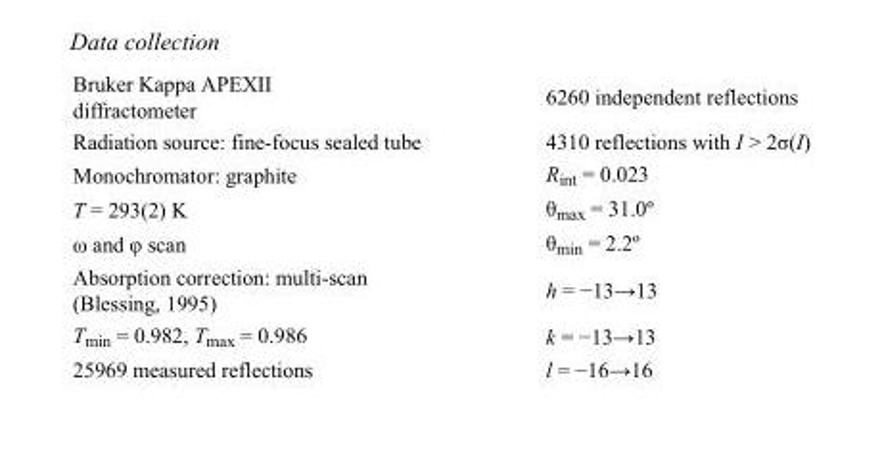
<table><tbody><tr><td>Bruker Kappa APEXII diffractometer</td><td>6260 independent reflections</td></tr><tr><td>Radiation source: fine-focus sealed tube</td><td>4310 reflections with I &gt; 2σ(I)</td></tr><tr><td>Monochromator: graphite</td><td>R<sub>int</sub> = 0.023</td></tr><tr><td>T = 293(2) K</td><td>θ<sub>max</sub> = 31.0º</td></tr><tr><td>ω and φ scan</td><td>θ<sub>min</sub> = 2.2º</td></tr><tr><td>Absorption correction: multi-scan (Blessing, 1995)</td><td>h = −13→13</td></tr><tr><td>T<sub>min</sub> = 0.982, T<sub>max</sub> = 0.986</td><td>k = −13→13</td></tr><tr><td>25969 measured reflections</td><td>l = −16→16</td></tr></tbody></table>